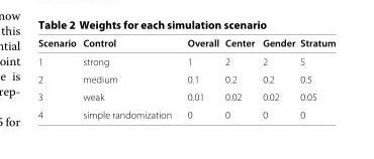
<table><thead><tr><td>Scenario</td><td>Control</td><td>Overall</td><td>Center</td><td>Gender</td><td>Stratum</td></tr></thead><tbody><tr><td>1</td><td>strong</td><td>1</td><td>2</td><td>2</td><td>5</td></tr><tr><td>2</td><td>medium</td><td>0.1</td><td>0.2</td><td>0.2</td><td>0.5</td></tr><tr><td>3</td><td>weak</td><td>0.01</td><td>0.02</td><td>0.02</td><td>0.05</td></tr><tr><td>4</td><td>simple randomization</td><td>0</td><td>0</td><td>0</td><td>0</td></tr></tbody></table>